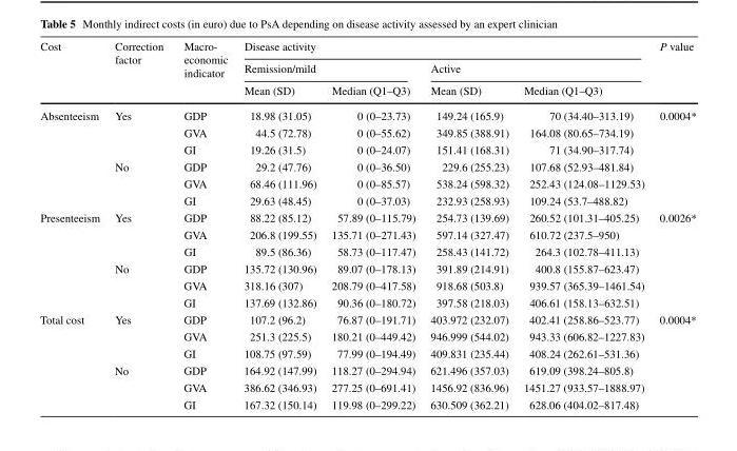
<table><thead><tr><td rowspan="3">Cost</td><td rowspan="3">Correction factor</td><td rowspan="3">Macro- economic indicator</td><td colspan="4">Disease activity</td><td rowspan="3">P value</td></tr><tr><td colspan="2">Remission/mild</td><td colspan="2">Active</td></tr><tr><td>Mean (SD)</td><td>Median (Q1–Q3)</td><td>Mean (SD)</td><td>Median (Q1–Q3)</td></tr></thead><tbody><tr><td rowspan="6">Absenteeism</td><td rowspan="3">Yes</td><td>GDP</td><td>18.98 (31.05)</td><td>0 (0–23.73)</td><td>149.24 (165.9)</td><td>70 (34.40–313.19)</td><td rowspan="6">0.0004*</td></tr><tr><td>GVA</td><td>44.5 (72.78)</td><td>0 (0–55.62)</td><td>349.85 (388.91)</td><td>164.08 (80.65–734.19)</td></tr><tr><td>GI</td><td>19.26 (31.5)</td><td>0 (0–24.07)</td><td>151.41 (168.31)</td><td>71 (34.90–317.74)</td></tr><tr><td rowspan="3">No</td><td>GDP</td><td>29.2 (47.76)</td><td>0 (0–36.50)</td><td>229.6 (255.23)</td><td>107.68 (52.93–481.84)</td></tr><tr><td>GVA</td><td>68.46 (111.96)</td><td>0 (0–85.57)</td><td>538.24 (598.32)</td><td>252.43 (124.08–1129.53)</td></tr><tr><td>GI</td><td>29.63 (48.45)</td><td>0 (0–37.03)</td><td>232.93 (258.93)</td><td>109.24 (53.7–488.82)</td></tr><tr><td rowspan="6">Presenteeism</td><td rowspan="3">Yes</td><td>GDP</td><td>88.22 (85.12)</td><td>57.89 (0–115.79)</td><td>254.73 (139.69)</td><td>260.52 (101.31–405.25)</td><td rowspan="6">0.0026*</td></tr><tr><td>GVA</td><td>206.8 (199.55)</td><td>135.71 (0–271.43)</td><td>597.14 (327.47)</td><td>610.72 (237.5–950)</td></tr><tr><td>GI</td><td>89.5 (86.36)</td><td>58.73 (0–117.47)</td><td>258.43 (141.72)</td><td>264.3 (102.78–411.13)</td></tr><tr><td rowspan="3">No</td><td>GDP</td><td>135.72 (130.96)</td><td>89.07 (0–178.13)</td><td>391.89 (214.91)</td><td>400.8 (155.87–623.47)</td></tr><tr><td>GVA</td><td>318.16 (307)</td><td>208.79 (0–417.58)</td><td>918.68 (503.8)</td><td>939.57 (365.39–1461.54)</td></tr><tr><td>GI</td><td>137.69 (132.86)</td><td>90.36 (0–180.72)</td><td>397.58 (218.03)</td><td>406.61 (158.13–632.51)</td></tr><tr><td rowspan="6">Total cost</td><td rowspan="3">Yes</td><td>GDP</td><td>107.2 (96.2)</td><td>76.87 (0–191.71)</td><td>403.972 (232.07)</td><td>402.41 (258.86–523.77)</td><td rowspan="6">0.0004*</td></tr><tr><td>GVA</td><td>251.3 (225.5)</td><td>180.21 (0–449.42)</td><td>946.999 (544.02)</td><td>943.33 (606.82–1227.83)</td></tr><tr><td>GI</td><td>108.75 (97.59)</td><td>77.99 (0–194.49)</td><td>409.831 (235.44)</td><td>408.24 (262.61–531.36)</td></tr><tr><td rowspan="3">No</td><td>GDP</td><td>164.92 (147.99)</td><td>118.27 (0–294.94)</td><td>621.496 (357.03)</td><td>619.09 (398.24–805.8)</td></tr><tr><td>GVA</td><td>386.62 (346.93)</td><td>277.25 (0–691.41)</td><td>1456.92 (836.96)</td><td>1451.27 (933.57–1888.97)</td></tr><tr><td>GI</td><td>167.32 (150.14)</td><td>119.98 (0–299.22)</td><td>630.509 (362.21)</td><td>628.06 (404.02–817.48)</td></tr></tbody></table>